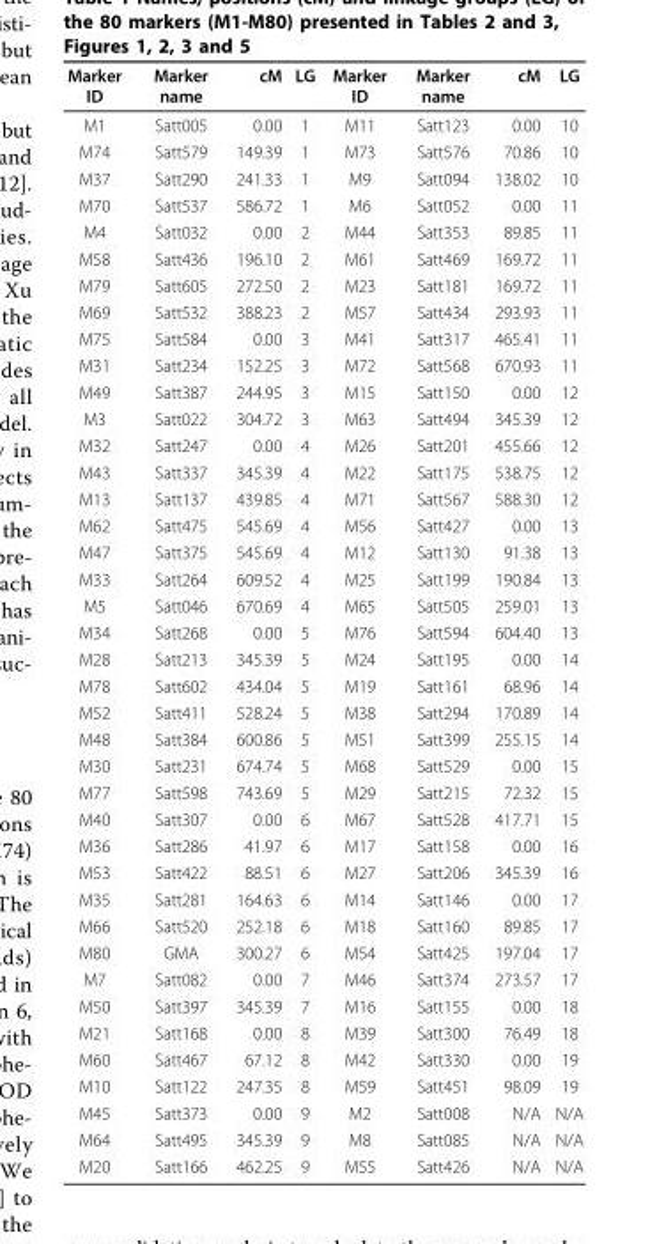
<table><tbody><tr><td>Marker ID</td><td>Marker name</td><td>cM</td><td>LG</td><td>Marker ID</td><td>Marker name</td><td>cM</td><td>LG</td></tr><tr><td>M1</td><td>Satt005</td><td>0.00</td><td>1</td><td>M11</td><td>Satt123</td><td>0.00</td><td>10</td></tr><tr><td>M74</td><td>Satt579</td><td>149.39</td><td>1</td><td>M73</td><td>Satt576</td><td>70.86</td><td>10</td></tr><tr><td>M37</td><td>Satt290</td><td>241.33</td><td>1</td><td>M9</td><td>Satt094</td><td>138.02</td><td>10</td></tr><tr><td>M70</td><td>Satt537</td><td>586.72</td><td>1</td><td>M6</td><td>Satt052</td><td>0.00</td><td>11</td></tr><tr><td>M4</td><td>Satt032</td><td>0.00</td><td>2</td><td>M44</td><td>Satt353</td><td>89.85</td><td>11</td></tr><tr><td>M58</td><td>Satt436</td><td>196.10</td><td>2</td><td>M61</td><td>Satt469</td><td>169.72</td><td>11</td></tr><tr><td>M79</td><td>Satt605</td><td>272.50</td><td>2</td><td>M23</td><td>Satt181</td><td>169.72</td><td>11</td></tr><tr><td>M69</td><td>Satt532</td><td>388.23</td><td>2</td><td>M57</td><td>Satt434</td><td>293.93</td><td>11</td></tr><tr><td>M75</td><td>Satt584</td><td>0.00</td><td>3</td><td>M41</td><td>Satt317</td><td>465.41</td><td>11</td></tr><tr><td>M31</td><td>Satt234</td><td>152.25</td><td>3</td><td>M72</td><td>Satt568</td><td>670.93</td><td>11</td></tr><tr><td>M49</td><td>Satt387</td><td>244.95</td><td>3</td><td>M15</td><td>Satt150</td><td>0.00</td><td>12</td></tr><tr><td>M3</td><td>Satt022</td><td>304.72</td><td>3</td><td>M63</td><td>Satt494</td><td>345.39</td><td>12</td></tr><tr><td>M32</td><td>Satt247</td><td>0.00</td><td>4</td><td>M26</td><td>Satt201</td><td>455.66</td><td>12</td></tr><tr><td>M43</td><td>Satt337</td><td>345.39</td><td>4</td><td>M22</td><td>Satt175</td><td>538.75</td><td>12</td></tr><tr><td>M13</td><td>Satt137</td><td>439.85</td><td>4</td><td>M71</td><td>Satt567</td><td>588.30</td><td>12</td></tr><tr><td>M62</td><td>Satt475</td><td>545.69</td><td>4</td><td>M56</td><td>Satt427</td><td>0.00</td><td>13</td></tr><tr><td>M47</td><td>Satt375</td><td>545.69</td><td>4</td><td>M12</td><td>Satt130</td><td>91.38</td><td>13</td></tr><tr><td>M33</td><td>Satt264</td><td>609.52</td><td>4</td><td>M25</td><td>Satt199</td><td>190.84</td><td>13</td></tr><tr><td>M5</td><td>Satt046</td><td>670.69</td><td>4</td><td>M65</td><td>Satt505</td><td>259.01</td><td>13</td></tr><tr><td>M34</td><td>Satt268</td><td>0.00</td><td>5</td><td>M76</td><td>Satt594</td><td>604.40</td><td>13</td></tr><tr><td>M28</td><td>Satt213</td><td>345.39</td><td>5</td><td>M24</td><td>Satt195</td><td>0.00</td><td>14</td></tr><tr><td>M78</td><td>Satt602</td><td>434.04</td><td>5</td><td>M19</td><td>Satt161</td><td>68.96</td><td>14</td></tr><tr><td>M52</td><td>Satt411</td><td>528.24</td><td>5</td><td>M38</td><td>Satt294</td><td>170.89</td><td>14</td></tr><tr><td>M48</td><td>Satt384</td><td>600.86</td><td>5</td><td>M51</td><td>Satt399</td><td>255.15</td><td>14</td></tr><tr><td>M30</td><td>Satt231</td><td>674.74</td><td>5</td><td>M68</td><td>Satt529</td><td>0.00</td><td>15</td></tr><tr><td>M77</td><td>Satt598</td><td>743.69</td><td>5</td><td>M29</td><td>Satt215</td><td>72.32</td><td>15</td></tr><tr><td>M40</td><td>Satt307</td><td>0.00</td><td>6</td><td>M67</td><td>Satt528</td><td>417.71</td><td>15</td></tr><tr><td>M36</td><td>Satt286</td><td>41.97</td><td>6</td><td>M17</td><td>Satt158</td><td>0.00</td><td>16</td></tr><tr><td>M53</td><td>Satt422</td><td>88.51</td><td>6</td><td>M27</td><td>Satt206</td><td>345.39</td><td>16</td></tr><tr><td>M35</td><td>Satt281</td><td>164.63</td><td>6</td><td>M14</td><td>Satt146</td><td>0.00</td><td>17</td></tr><tr><td>M66</td><td>Satt520</td><td>252.18</td><td>6</td><td>M18</td><td>Satt160</td><td>89.85</td><td>17</td></tr><tr><td>M80</td><td>GMA</td><td>300.27</td><td>6</td><td>M54</td><td>Satt425</td><td>197.04</td><td>17</td></tr><tr><td>M7</td><td>Satt082</td><td>0.00</td><td>7</td><td>M46</td><td>Satt374</td><td>273.57</td><td>17</td></tr><tr><td>M50</td><td>Satt397</td><td>345.39</td><td>7</td><td>M16</td><td>Satt155</td><td>0.00</td><td>18</td></tr><tr><td>M21</td><td>Satt168</td><td>0.00</td><td>8</td><td>M39</td><td>Satt300</td><td>76.49</td><td>18</td></tr><tr><td>M60</td><td>Satt467</td><td>67.12</td><td>8</td><td>M42</td><td>Satt330</td><td>0.00</td><td>19</td></tr><tr><td>M10</td><td>Satt122</td><td>247.35</td><td>8</td><td>M59</td><td>Satt451</td><td>98.09</td><td>19</td></tr><tr><td>M45</td><td>Satt373</td><td>0.00</td><td>9</td><td>M2</td><td>Satt008</td><td>N/A</td><td>N/A</td></tr><tr><td>M64</td><td>Satt495</td><td>345.39</td><td>9</td><td>M8</td><td>Satt085</td><td>N/A</td><td>N/A</td></tr><tr><td>M20</td><td>Satt166</td><td>462.25</td><td>9</td><td>M55</td><td>Satt426</td><td>N/A</td><td>N/A</td></tr></tbody></table>